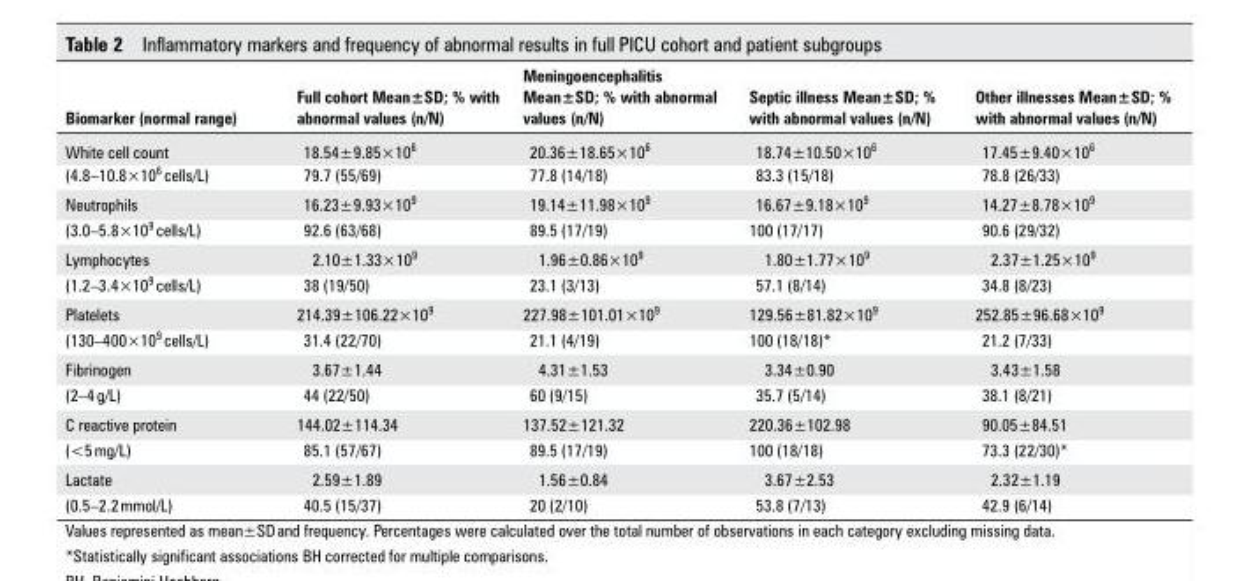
<table><thead><tr><td>biomarker (normal range)</td><td>Full cohort Mean±sd; % with abnormal values (n/n)</td><td>Meningoencephalitis Mean±sd; % with abnormal values (n/n)</td><td>septic illness Mean±sd; % with abnormal values (n/n)</td><td>Other illnesses Mean±sd; % with abnormal values (n/n)</td></tr></thead><tbody><tr><td>White cell count</td><td>18.54±9.85×10<sup>6</sup></td><td>20.36±18.65×10<sup>6</sup></td><td>18.74±10.50×10<sup>6</sup></td><td>17.45±9.40×10<sup>6</sup></td></tr><tr><td>(4.8–10.8×10<sup>6</sup> cells/L)</td><td>79.7 (55/69)</td><td>77.8 (14/18)</td><td>83.3 (15/18)</td><td>78.8 (26/33)</td></tr><tr><td>Neutrophils</td><td>16.23±9.93×10<sup>9</sup></td><td>19.14±11.98×10<sup>9</sup></td><td>16.67±9.18×10<sup>9</sup></td><td>14.27±8.78×10<sup>9</sup></td></tr><tr><td>(3.0–5.8×10<sup>9</sup> cells/L)</td><td>92.6 (63/68)</td><td>89.5 (17/19)</td><td>100 (17/17)</td><td>90.6 (29/32)</td></tr><tr><td>Lymphocytes</td><td>2.10±1.33×10<sup>9</sup></td><td>1.96±0.86×10<sup>9</sup></td><td>1.80±1.77×10<sup>9</sup></td><td>2.37±1.25×10<sup>9</sup></td></tr><tr><td>(1.2–3.4×10<sup>9</sup> cells/L)</td><td>38 (19/50)</td><td>23.1 (3/13)</td><td>57.1 (8/14)</td><td>34.8 (8/23)</td></tr><tr><td>Platelets</td><td>214.39±106.22×10<sup>9</sup></td><td>227.98±101.01×10<sup>9</sup></td><td>129.56±81.82×10<sup>9</sup></td><td>252.85±96.68×10<sup>9</sup></td></tr><tr><td>(130–400×10<sup>9</sup> cells/L)</td><td>31.4 (22/70)</td><td>21.1 (4/19)</td><td>100 (18/18)*</td><td>21.2 (7/33)</td></tr><tr><td>Fibrinogen</td><td>3.67±1.44</td><td>4.31±1.53</td><td>3.34±0.90</td><td>3.43±1.58</td></tr><tr><td>(2–4 g/L)</td><td>44 (22/50)</td><td>60 (9/15)</td><td>35.7 (5/14)</td><td>38.1 (8/21)</td></tr><tr><td>C reactive protein</td><td>144.02±114.34</td><td>137.52±121.32</td><td>220.36±102.98</td><td>90.05±84.51</td></tr><tr><td>(&lt;5 mg/L)</td><td>85.1 (57/67)</td><td>89.5 (17/19)</td><td>100 (18/18)</td><td>73.3 (22/30)*</td></tr><tr><td>Lactate</td><td>2.59±1.89</td><td>1.56±0.84</td><td>3.67±2.53</td><td>2.32±1.19</td></tr><tr><td>(0.5–2.2 mmol/L)</td><td>40.5 (15/37)</td><td>20 (2/10)</td><td>53.8 (7/13)</td><td>42.9 (6/14)</td></tr></tbody></table>